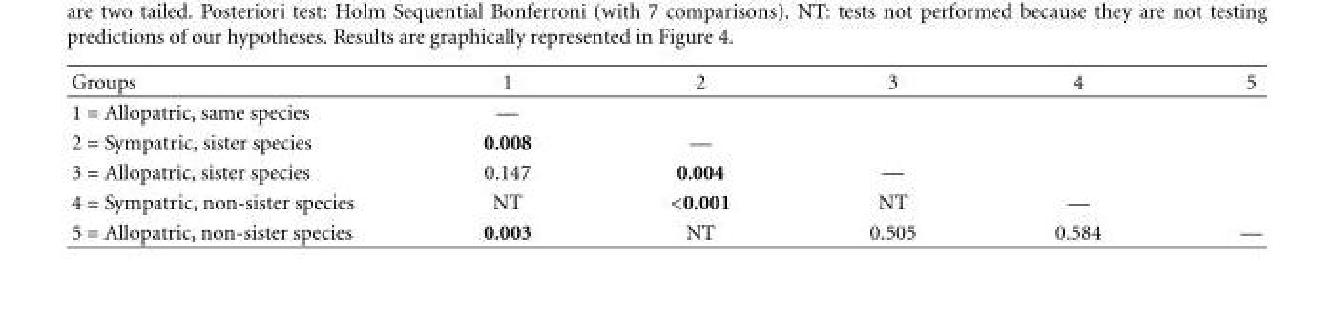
<table><thead><tr><td>Groups</td><td>1</td><td>2</td><td>3</td><td>4</td><td>5</td></tr></thead><tbody><tr><td>1 = Allopatric, same species</td><td>—</td><td></td><td></td><td></td><td></td></tr><tr><td>2 = Sympatric, sister species</td><td>0.008</td><td>—</td><td></td><td></td><td></td></tr><tr><td>3 = Allopatric, sister species</td><td>0.147</td><td>0.004</td><td>—</td><td></td><td></td></tr><tr><td>4 = Sympatric, non-sister species</td><td>NT</td><td>&lt;0.001</td><td>NT</td><td>—</td><td></td></tr><tr><td>5 = Allopatric, non-sister species</td><td>0.003</td><td>NT</td><td>0.505</td><td>0.584</td><td>—</td></tr></tbody></table>